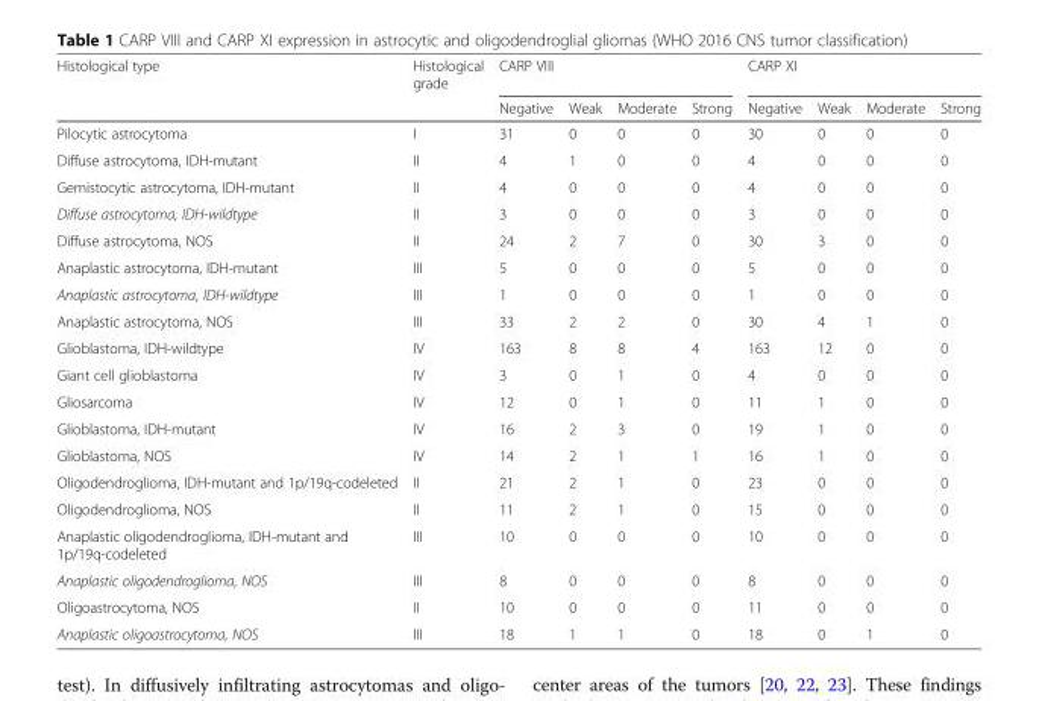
<table><thead><tr><td rowspan="2">Histological type</td><td rowspan="2">Histological grade</td><td colspan="4">CARP VIII</td><td colspan="4">CARP XI</td></tr><tr><td>Negative</td><td>Weak</td><td>Moderate</td><td>Strong</td><td>Negative</td><td>Weak</td><td>Moderate</td><td>Strong</td></tr></thead><tbody><tr><td>Pilocytic astrocytoma</td><td>I</td><td>31</td><td>0</td><td>0</td><td>0</td><td>30</td><td>0</td><td>0</td><td>0</td></tr><tr><td>Diffuse astrocytoma, IDH-mutant</td><td>II</td><td>4</td><td>1</td><td>0</td><td>0</td><td>4</td><td>0</td><td>0</td><td>0</td></tr><tr><td>Gemistocytic astrocytoma, IDH-mutant</td><td>II</td><td>4</td><td>0</td><td>0</td><td>0</td><td>4</td><td>0</td><td>0</td><td>0</td></tr><tr><td>Diffuse astrocytoma, IDH-wildtype</td><td>II</td><td>3</td><td>0</td><td>0</td><td>0</td><td>3</td><td>0</td><td>0</td><td>0</td></tr><tr><td>Diffuse astrocytoma, NOS</td><td>II</td><td>24</td><td>2</td><td>7</td><td>0</td><td>30</td><td>3</td><td>0</td><td>0</td></tr><tr><td>Anaplastic astrocytoma, IDH-mutant</td><td>III</td><td>5</td><td>0</td><td>0</td><td>0</td><td>5</td><td>0</td><td>0</td><td>0</td></tr><tr><td>Anaplastic astrocytoma, IDH-wildtype</td><td>III</td><td>1</td><td>0</td><td>0</td><td>0</td><td>1</td><td>0</td><td>0</td><td>0</td></tr><tr><td>Anaplastic astrocytoma, NOS</td><td>III</td><td>33</td><td>2</td><td>2</td><td>0</td><td>30</td><td>4</td><td>1</td><td>0</td></tr><tr><td>Glioblastoma, IDH-wildtype</td><td>IV</td><td>163</td><td>8</td><td>8</td><td>4</td><td>163</td><td>12</td><td>0</td><td>0</td></tr><tr><td>Giant cell glioblastoma</td><td>IV</td><td>3</td><td>0</td><td>1</td><td>0</td><td>4</td><td>0</td><td>0</td><td>0</td></tr><tr><td>Gliosarcoma</td><td>IV</td><td>12</td><td>0</td><td>1</td><td>0</td><td>11</td><td>1</td><td>0</td><td>0</td></tr><tr><td>Glioblastoma, IDH-mutant</td><td>IV</td><td>16</td><td>2</td><td>3</td><td>0</td><td>19</td><td>1</td><td>0</td><td>0</td></tr><tr><td>Glioblastoma, NOS</td><td>IV</td><td>14</td><td>2</td><td>1</td><td>1</td><td>16</td><td>1</td><td>0</td><td>0</td></tr><tr><td>Oligodendroglioma, IDH-mutant and 1p/19q-codeleted</td><td>II</td><td>21</td><td>2</td><td>1</td><td>0</td><td>23</td><td>0</td><td>0</td><td>0</td></tr><tr><td>Oligodendroglioma, NOS</td><td>II</td><td>11</td><td>2</td><td>1</td><td>0</td><td>15</td><td>0</td><td>0</td><td>0</td></tr><tr><td>Anaplastic oligodendroglioma, IDH-mutant and 1p/19q-codeleted</td><td>III</td><td>10</td><td>0</td><td>0</td><td>0</td><td>10</td><td>0</td><td>0</td><td>0</td></tr><tr><td>Anaplastic oligodendroglioma, NOS</td><td>III</td><td>8</td><td>0</td><td>0</td><td>0</td><td>8</td><td>0</td><td>0</td><td>0</td></tr><tr><td>Oligoastrocytoma, NOS</td><td>II</td><td>10</td><td>0</td><td>0</td><td>0</td><td>11</td><td>0</td><td>0</td><td>0</td></tr><tr><td>Anaplastic oligoastrocytoma, NOS</td><td>III</td><td>18</td><td>1</td><td>1</td><td>0</td><td>18</td><td>0</td><td>1</td><td>0</td></tr></tbody></table>